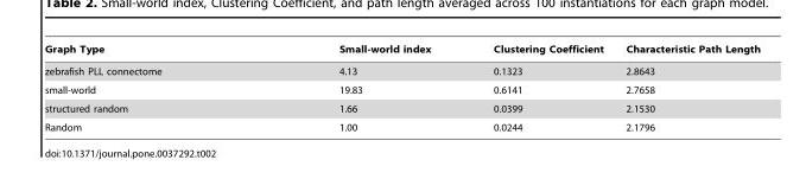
<table><thead><tr><td>Graph Type</td><td>Small-world index</td><td>Clustering Coefficient</td><td>Characteristic Path Length</td></tr></thead><tbody><tr><td>zebrafish PLL connectome</td><td>4.13</td><td>0.1323</td><td>2.8643</td></tr><tr><td>small-world</td><td>19.83</td><td>0.6141</td><td>2.7658</td></tr><tr><td>structured random</td><td>1.66</td><td>0.0399</td><td>2.1530</td></tr><tr><td>Random</td><td>1.00</td><td>0.0244</td><td>2.1796</td></tr></tbody></table>